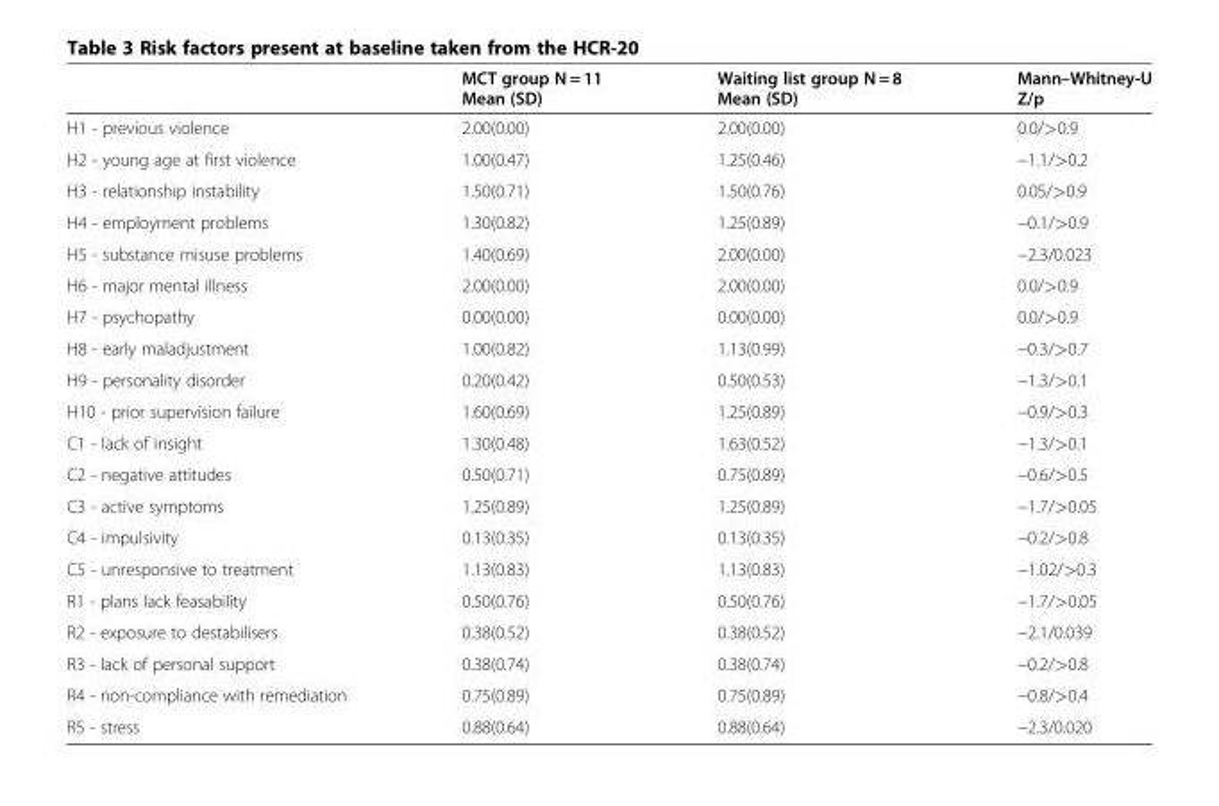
<table><thead><tr><td></td><td>MCT group N = 11 Mean (SD)</td><td>Waiting list group N = 8 Mean (SD)</td><td>Mann–Whitney-U Z/p</td></tr></thead><tbody><tr><td>H1 - previous violence</td><td>2.00(0.00)</td><td>2.00(0.00)</td><td>0.0/&gt;0.9</td></tr><tr><td>H2 - young age at first violence</td><td>1.00(0.47)</td><td>1.25(0.46)</td><td>−1.1/&gt;0.2</td></tr><tr><td>H3 - relationship instability</td><td>1.50(0.71)</td><td>1.50(0.76)</td><td>0.05/&gt;0.9</td></tr><tr><td>H4 - employment problems</td><td>1.30(0.82)</td><td>1.25(0.89)</td><td>−0.1/&gt;0.9</td></tr><tr><td>H5 - substance misuse problems</td><td>1.40(0.69)</td><td>2.00(0.00)</td><td>−2.3/0.023</td></tr><tr><td>H6 - major mental illness</td><td>2.00(0.00)</td><td>2.00(0.00)</td><td>0.0/&gt;0.9</td></tr><tr><td>H7 - psychopathy</td><td>0.00(0.00)</td><td>0.00(0.00)</td><td>0.0/&gt;0.9</td></tr><tr><td>H8 - early maladjustment</td><td>1.00(0.82)</td><td>1.13(0.99)</td><td>−0.3/&gt;0.7</td></tr><tr><td>H9 - personality disorder</td><td>0.20(0.42)</td><td>0.50(0.53)</td><td>−1.3/&gt;0.1</td></tr><tr><td>H10 - prior supervision failure</td><td>1.60(0.69)</td><td>1.25(0.89)</td><td>−0.9/&gt;0.3</td></tr><tr><td>C1 - lack of insight</td><td>1.30(0.48)</td><td>1.63(0.52)</td><td>−1.3/&gt;0.1</td></tr><tr><td>C2 - negative attitudes</td><td>0.50(0.71)</td><td>0.75(0.89)</td><td>−0.6/&gt;0.5</td></tr><tr><td>C3 - active symptoms</td><td>1.25(0.89)</td><td>1.25(0.89)</td><td>−1.7/&gt;0.05</td></tr><tr><td>C4 - impulsivity</td><td>0.13(0.35)</td><td>0.13(0.35)</td><td>−0.2/&gt;0.8</td></tr><tr><td>C5 - unresponsive to treatment</td><td>1.13(0.83)</td><td>1.13(0.83)</td><td>−1.02/&gt;0.3</td></tr><tr><td>R1 - plans lack feasability</td><td>0.50(0.76)</td><td>0.50(0.76)</td><td>−1.7/&gt;0.05</td></tr><tr><td>R2 - exposure to destabilisers</td><td>0.38(0.52)</td><td>0.38(0.52)</td><td>−2.1/0.039</td></tr><tr><td>R3 - lack of personal support</td><td>0.38(0.74)</td><td>0.38(0.74)</td><td>−0.2/&gt;0.8</td></tr><tr><td>R4 - non-compliance with remediation</td><td>0.75(0.89)</td><td>0.75(0.89)</td><td>−0.8/&gt;0.4</td></tr><tr><td>R5 - stress</td><td>0.88(0.64)</td><td>0.88(0.64)</td><td>−2.3/0.020</td></tr></tbody></table>